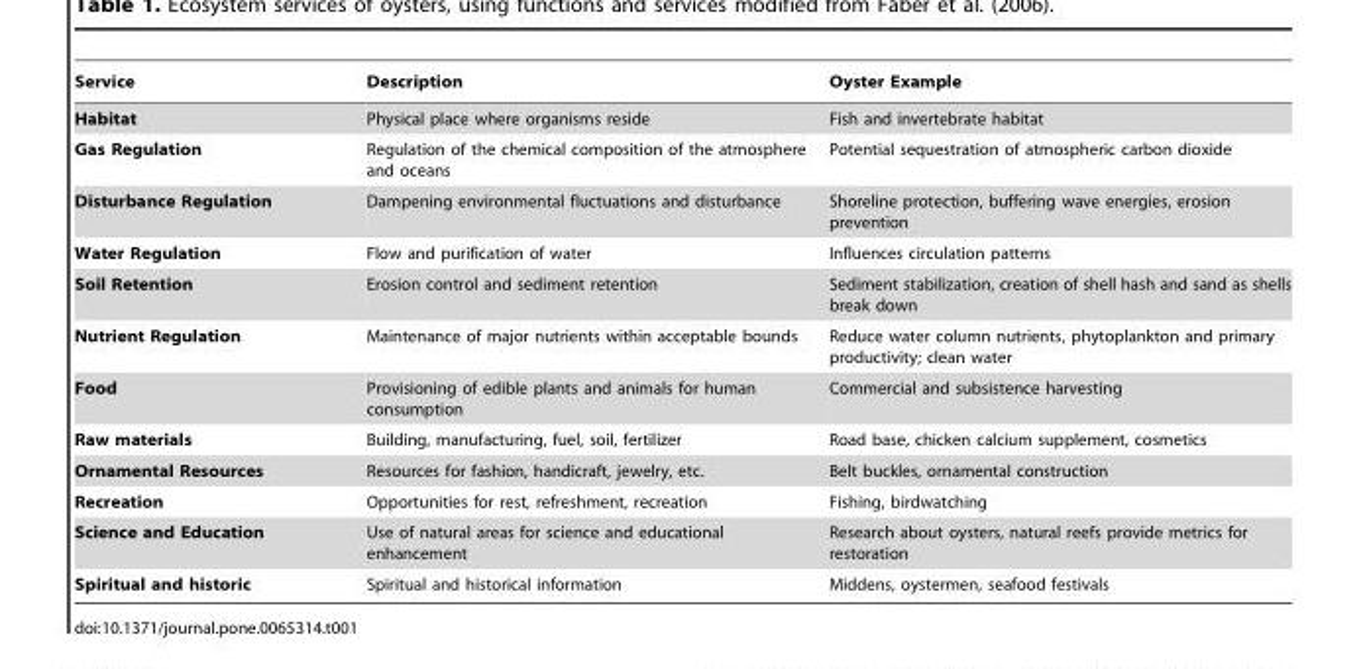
<table><thead><tr><td>Service</td><td>Description</td><td>Oyster Example</td></tr></thead><tbody><tr><td>Habitat</td><td>Physical place where organisms reside</td><td>Fish and invertebrate habitat</td></tr><tr><td>Gas Regulation</td><td>Regulation of the chemical composition of the atmosphere and oceans</td><td>Potential sequestration of atmospheric carbon dioxide</td></tr><tr><td>Disturbance Regulation</td><td>Dampening environmental fluctuations and disturbance</td><td>Shoreline protection, buffering wave energies, erosion prevention</td></tr><tr><td>Water Regulation</td><td>Flow and purification of water</td><td>Influences circulation patterns</td></tr><tr><td>Soil Retention</td><td>Erosion control and sediment retention</td><td>Sediment stabilization, creation of shell hash and sand as shells break down</td></tr><tr><td>Nutrient Regulation</td><td>Maintenance of major nutrients within acceptable bounds</td><td>Reduce water column nutrients, phytoplankton and primary productivity; clean water</td></tr><tr><td>Food</td><td>Provisioning of edible plants and animals for human consumption</td><td>Commercial and subsistence harvesting</td></tr><tr><td>Raw materials</td><td>Building, manufacturing, fuel, soil, fertilizer</td><td>Road base, chicken calcium supplement, cosmetics</td></tr><tr><td>Ornamental Resources</td><td>Resources for fashion, handicraft, jewelry, etc.</td><td>Belt buckles, ornamental construction</td></tr><tr><td>Recreation</td><td>Opportunities for rest, refreshment, recreation</td><td>Fishing, birdwatching</td></tr><tr><td>Science and Education</td><td>Use of natural areas for science and educational enhancement</td><td>Research about oysters, natural reefs provide metrics for restoration</td></tr><tr><td>Spiritual and historic</td><td>Spiritual and historical information</td><td>Middens, oystermen, seafood festivals</td></tr></tbody></table>